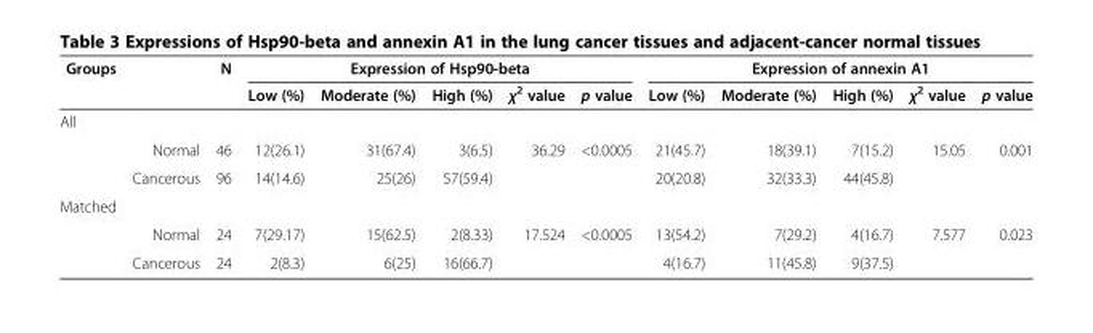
<table><thead><tr><td rowspan="2">Groups</td><td rowspan="2"></td><td rowspan="2">N</td><td colspan="5">Expression of Hsp90-beta</td><td colspan="5">Expression of annexin A1</td></tr><tr><td>Low (%)</td><td>Moderate (%)</td><td>High (%)</td><td>χ<sup>2</sup> value</td><td>p value</td><td>Low (%)</td><td>Moderate (%)</td><td>High (%)</td><td>χ<sup>2</sup> value</td><td>p value</td></tr></thead><tbody><tr><td colspan="13">All</td></tr><tr><td></td><td>Normal</td><td>46</td><td>12(26.1)</td><td>31(67.4)</td><td>3(6.5)</td><td rowspan="2">36.29</td><td rowspan="2">&lt;0.0005</td><td>21(45.7)</td><td>18(39.1)</td><td>7(15.2)</td><td rowspan="2">15.05</td><td rowspan="2">0.001</td></tr><tr><td></td><td>Cancerous</td><td>96</td><td>14(14.6)</td><td>25(26)</td><td>57(59.4)</td><td>20(20.8)</td><td>32(33.3)</td><td>44(45.8)</td></tr><tr><td colspan="13">Matched</td></tr><tr><td></td><td>Normal</td><td>24</td><td>7(29.17)</td><td>15(62.5)</td><td>2(8.33)</td><td>17.524</td><td>&lt;0.0005</td><td>13(54.2)</td><td>7(29.2)</td><td>4(16.7)</td><td>7.577</td><td>0.023</td></tr><tr><td></td><td>Cancerous</td><td>24</td><td>2(8.3)</td><td>6(25)</td><td>16(66.7)</td><td></td><td></td><td>4(16.7)</td><td>11(45.8)</td><td>9(37.5)</td><td></td><td></td></tr></tbody></table>